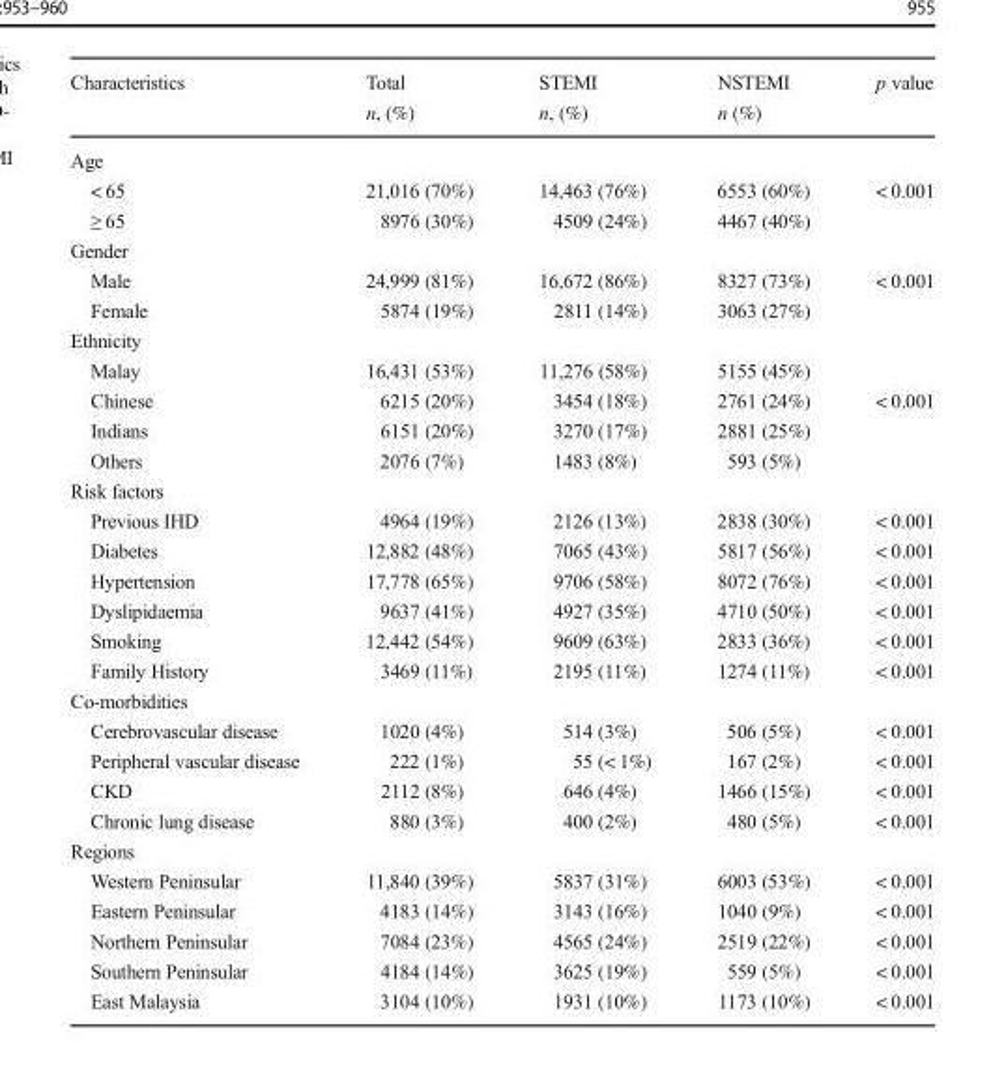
<table><thead><tr><td>Characteristics</td><td>Total n, (%)</td><td>STEMI n, (%)</td><td>NSTEMI n (%)</td><td>p value</td></tr></thead><tbody><tr><td colspan="5">Age</td></tr><tr><td>&lt; 65</td><td>21,016 (70%)</td><td>14,463 (76%)</td><td>6553 (60%)</td><td>&lt; 0.001</td></tr><tr><td>≥ 65</td><td>8976 (30%)</td><td>4509 (24%)</td><td>4467 (40%)</td><td></td></tr><tr><td colspan="5">Gender</td></tr><tr><td>Male</td><td>24,999 (81%)</td><td>16,672 (86%)</td><td>8327 (73%)</td><td>&lt; 0.001</td></tr><tr><td>Female</td><td>5874 (19%)</td><td>2811 (14%)</td><td>3063 (27%)</td><td></td></tr><tr><td colspan="5">Ethnicity</td></tr><tr><td>Malay</td><td>16,431 (53%)</td><td>11,276 (58%)</td><td>5155 (45%)</td><td></td></tr><tr><td>Chinese</td><td>6215 (20%)</td><td>3454 (18%)</td><td>2761 (24%)</td><td>&lt; 0.001</td></tr><tr><td>Indians</td><td>6151 (20%)</td><td>3270 (17%)</td><td>2881 (25%)</td><td></td></tr><tr><td>Others</td><td>2076 (7%)</td><td>1483 (8%)</td><td>593 (5%)</td><td></td></tr><tr><td colspan="5">Risk factors</td></tr><tr><td>Previous IHD</td><td>4964 (19%)</td><td>2126 (13%)</td><td>2838 (30%)</td><td>&lt; 0.001</td></tr><tr><td>Diabetes</td><td>12,882 (48%)</td><td>7065 (43%)</td><td>5817 (56%)</td><td>&lt; 0.001</td></tr><tr><td>Hypertension</td><td>17,778 (65%)</td><td>9706 (58%)</td><td>8072 (76%)</td><td>&lt; 0.001</td></tr><tr><td>Dyslipidaemia</td><td>9637 (41%)</td><td>4927 (35%)</td><td>4710 (50%)</td><td>&lt; 0.001</td></tr><tr><td>Smoking</td><td>12,442 (54%)</td><td>9609 (63%)</td><td>2833 (36%)</td><td>&lt; 0.001</td></tr><tr><td>Family History</td><td>3469 (11%)</td><td>2195 (11%)</td><td>1274 (11%)</td><td>&lt; 0.001</td></tr><tr><td colspan="5">Co-morbidities</td></tr><tr><td>Cerebrovascular disease</td><td>1020 (4%)</td><td>514 (3%)</td><td>506 (5%)</td><td>&lt; 0.001</td></tr><tr><td>Peripheral vascular disease</td><td>222 (1%)</td><td>55 (&lt; 1%)</td><td>167 (2%)</td><td>&lt; 0.001</td></tr><tr><td>CKD</td><td>2112 (8%)</td><td>646 (4%)</td><td>1466 (15%)</td><td>&lt; 0.001</td></tr><tr><td>Chronic lung disease</td><td>880 (3%)</td><td>400 (2%)</td><td>480 (5%)</td><td>&lt; 0.001</td></tr><tr><td colspan="5">Regions</td></tr><tr><td>Western Peninsular</td><td>11,840 (39%)</td><td>5837 (31%)</td><td>6003 (53%)</td><td>&lt; 0.001</td></tr><tr><td>Eastern Peninsular</td><td>4183 (14%)</td><td>3143 (16%)</td><td>1040 (9%)</td><td>&lt; 0.001</td></tr><tr><td>Northern Peninsular</td><td>7084 (23%)</td><td>4565 (24%)</td><td>2519 (22%)</td><td>&lt; 0.001</td></tr><tr><td>Southern Peninsular</td><td>4184 (14%)</td><td>3625 (19%)</td><td>559 (5%)</td><td>&lt; 0.001</td></tr><tr><td>East Malaysia</td><td>3104 (10%)</td><td>1931 (10%)</td><td>1173 (10%)</td><td>&lt; 0.001</td></tr></tbody></table>